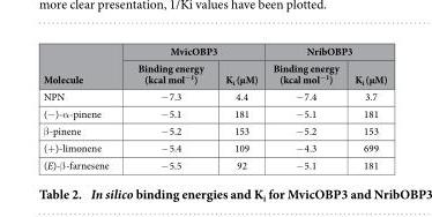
<table><thead><tr><td rowspan="2">Molecule</td><td colspan="2">MvicOBP3</td><td colspan="2">NribOBP3</td></tr><tr><td>Binding energy (kcal mol<sup>−1</sup>)</td><td>K<sub>i</sub> (μM)</td><td>Binding energy (kcal mol<sup>−1</sup>)</td><td>K<sub>i</sub> (μM)</td></tr></thead><tbody><tr><td>NPN</td><td>− 7.3</td><td>4.4</td><td>− 7.4</td><td>3.7</td></tr><tr><td>(−)-α -pinene</td><td>− 5.1</td><td>181</td><td>− 5.1</td><td>181</td></tr><tr><td>β -pinene</td><td>− 5.2</td><td>153</td><td>− 5.2</td><td>153</td></tr><tr><td>(+)-limonene</td><td>− 5.4</td><td>109</td><td>− 4.3</td><td>699</td></tr><tr><td>(E)-β -farnesene</td><td>− 5.5</td><td>92</td><td>− 5.1</td><td>181</td></tr></tbody></table>